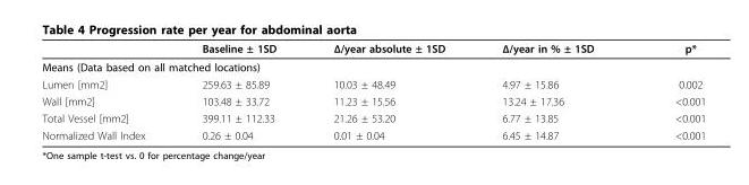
<table><thead><tr><td></td><td>Baseline ± 1SD</td><td>Δ/year absolute ± 1SD</td><td>Δ/year in % ± 1SD</td><td>p*</td></tr></thead><tbody><tr><td colspan="5">Means (Data based on all matched locations)</td></tr><tr><td>Lumen [mm2]</td><td>259.63 ± 85.89</td><td>10.03 ± 48.49</td><td>4.97 ± 15.86</td><td>0.002</td></tr><tr><td>Wall [mm2]</td><td>103.48 ± 33.72</td><td>11.23 ± 15.56</td><td>13.24 ± 17.36</td><td>&lt;0.001</td></tr><tr><td>Total Vessel [mm2]</td><td>399.11 ± 112.33</td><td>21.26 ± 53.20</td><td>6.77 ± 13.85</td><td>&lt;0.001</td></tr><tr><td>Normalized Wall Index</td><td>0.26 ± 0.04</td><td>0.01 ± 0.04</td><td>6.45 ± 14.87</td><td>&lt;0.001</td></tr></tbody></table>